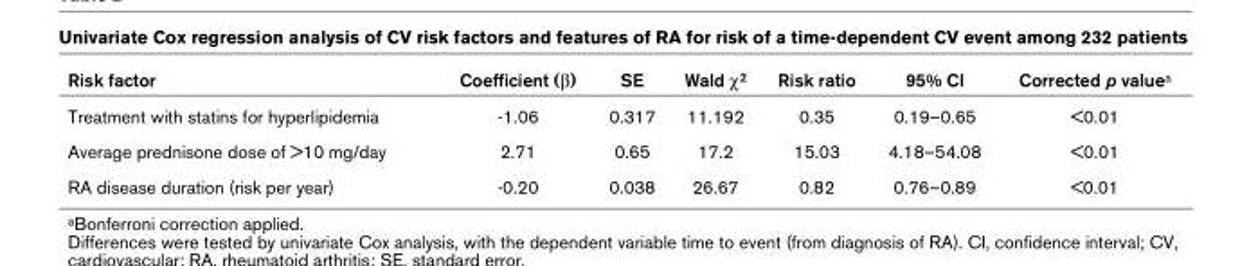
<table><thead><tr><td>Risk factor</td><td>Coefficient (β)</td><td>SE</td><td>Wald χ<sup>2</sup></td><td>Risk ratio</td><td>95% CI</td><td>Corrected p value<sup>a</sup></td></tr></thead><tbody><tr><td>Treatment with statins for hyperlipidemia</td><td>-1.06</td><td>0.317</td><td>11.192</td><td>0.35</td><td>0.19–0.65</td><td>&lt;0.01</td></tr><tr><td>Average prednisone dose of &gt;10 mg/day</td><td>2.71</td><td>0.65</td><td>17.2</td><td>15.03</td><td>4.18–54.08</td><td>&lt;0.01</td></tr><tr><td>RA disease duration (risk per year)</td><td>-0.20</td><td>0.038</td><td>26.67</td><td>0.82</td><td>0.76–0.89</td><td>&lt;0.01</td></tr></tbody></table>